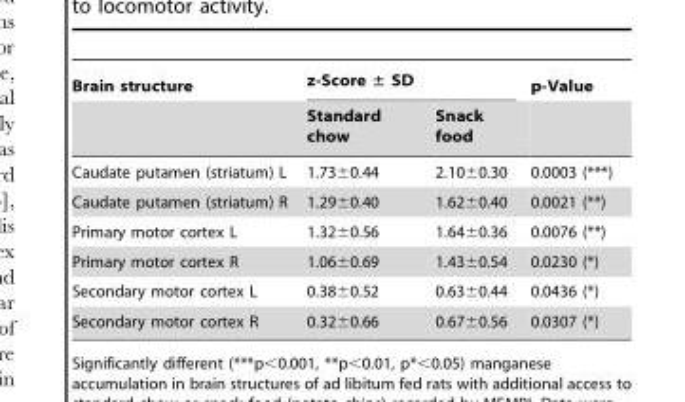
<table><thead><tr><td rowspan="2">Brain structure</td><td colspan="2">z-Score ± SD</td><td rowspan="2">p-Value</td></tr><tr><td>Standard chow</td><td>Snack food</td></tr></thead><tbody><tr><td>Caudate putamen (striatum) L</td><td>1.73±0.44</td><td>2.10±0.30</td><td>0.0003 (***)</td></tr><tr><td>Caudate putamen (striatum) R</td><td>1.29±0.40</td><td>1.62±0.40</td><td>0.0021 (**)</td></tr><tr><td>Primary motor cortex L</td><td>1.32±0.56</td><td>1.64±0.36</td><td>0.0076 (**)</td></tr><tr><td>Primary motor cortex R</td><td>1.06±0.69</td><td>1.43±0.54</td><td>0.0230 (*)</td></tr><tr><td>Secondary motor cortex L</td><td>0.38±0.52</td><td>0.63±0.44</td><td>0.0436 (*)</td></tr><tr><td>Secondary motor cortex R</td><td>0.32±0.66</td><td>0.67±0.56</td><td>0.0307 (*)</td></tr></tbody></table>